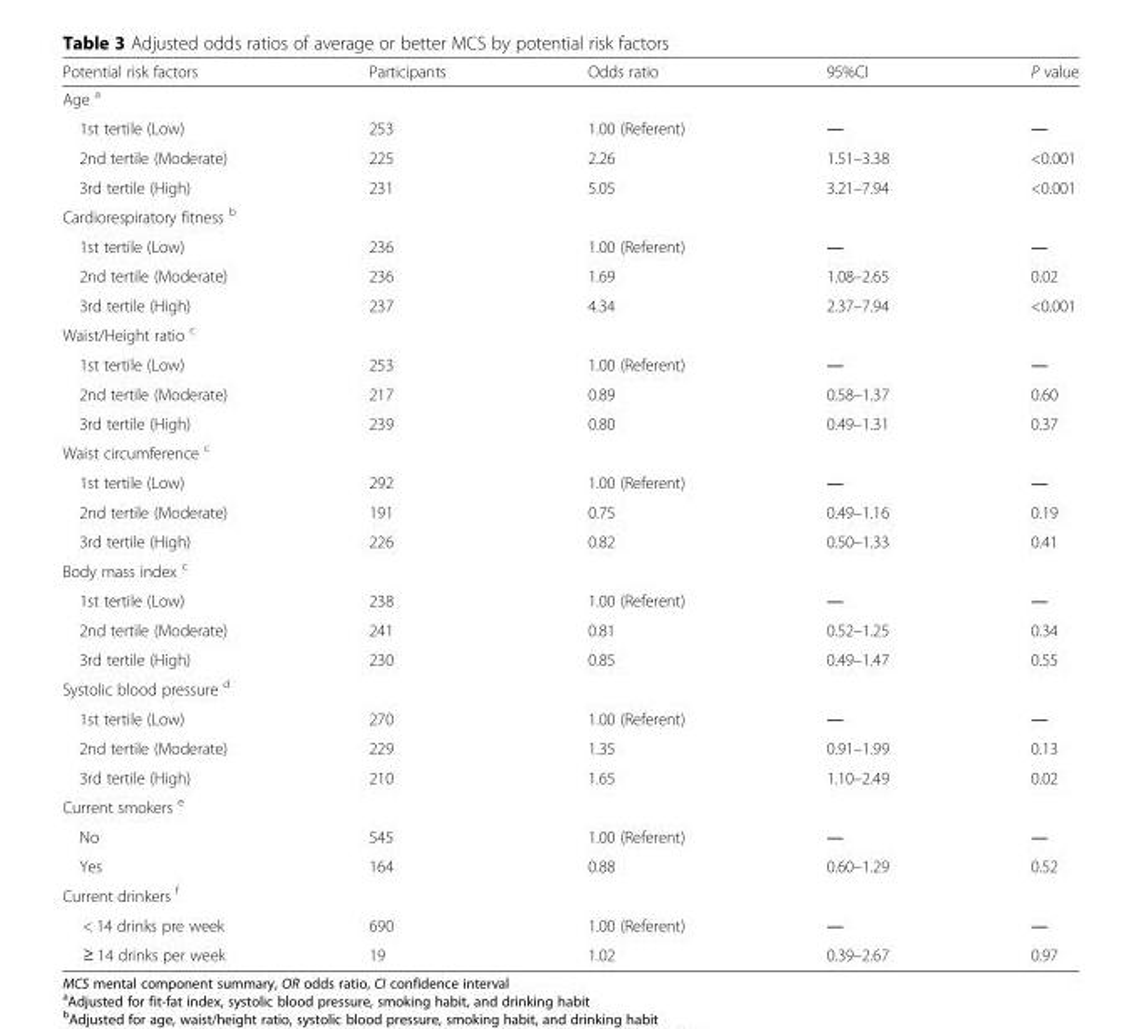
<table><thead><tr><td>Potential risk factors</td><td>Participants</td><td>Odds ratio</td><td>95%CI</td><td>P value</td></tr></thead><tbody><tr><td colspan="5">Age <sup>a</sup></td></tr><tr><td>1st tertile (Low)</td><td>253</td><td>1.00 (Referent)</td><td>―</td><td>―</td></tr><tr><td>2nd tertile (Moderate)</td><td>225</td><td>2.26</td><td>1.51–3.38</td><td>&lt;0.001</td></tr><tr><td>3rd tertile (High)</td><td>231</td><td>5.05</td><td>3.21–7.94</td><td>&lt;0.001</td></tr><tr><td colspan="5">Cardiorespiratory fitness <sup>b</sup></td></tr><tr><td>1st tertile (Low)</td><td>236</td><td>1.00 (Referent)</td><td>―</td><td>―</td></tr><tr><td>2nd tertile (Moderate)</td><td>236</td><td>1.69</td><td>1.08–2.65</td><td>0.02</td></tr><tr><td>3rd tertile (High)</td><td>237</td><td>4.34</td><td>2.37–7.94</td><td>&lt;0.001</td></tr><tr><td colspan="5">Waist/Height ratio <sup>c</sup></td></tr><tr><td>1st tertile (Low)</td><td>253</td><td>1.00 (Referent)</td><td>―</td><td>―</td></tr><tr><td>2nd tertile (Moderate)</td><td>217</td><td>0.89</td><td>0.58–1.37</td><td>0.60</td></tr><tr><td>3rd tertile (High)</td><td>239</td><td>0.80</td><td>0.49–1.31</td><td>0.37</td></tr><tr><td colspan="5">Waist circumference <sup>c</sup></td></tr><tr><td>1st tertile (Low)</td><td>292</td><td>1.00 (Referent)</td><td>―</td><td>―</td></tr><tr><td>2nd tertile (Moderate)</td><td>191</td><td>0.75</td><td>0.49–1.16</td><td>0.19</td></tr><tr><td>3rd tertile (High)</td><td>226</td><td>0.82</td><td>0.50–1.33</td><td>0.41</td></tr><tr><td colspan="5">Body mass index <sup>c</sup></td></tr><tr><td>1st tertile (Low)</td><td>238</td><td>1.00 (Referent)</td><td>―</td><td>―</td></tr><tr><td>2nd tertile (Moderate)</td><td>241</td><td>0.81</td><td>0.52–1.25</td><td>0.34</td></tr><tr><td>3rd tertile (High)</td><td>230</td><td>0.85</td><td>0.49–1.47</td><td>0.55</td></tr><tr><td colspan="5">Systolic blood pressure <sup>d</sup></td></tr><tr><td>1st tertile (Low)</td><td>270</td><td>1.00 (Referent)</td><td>―</td><td>―</td></tr><tr><td>2nd tertile (Moderate)</td><td>229</td><td>1.35</td><td>0.91–1.99</td><td>0.13</td></tr><tr><td>3rd tertile (High)</td><td>210</td><td>1.65</td><td>1.10–2.49</td><td>0.02</td></tr><tr><td colspan="5">Current smokers <sup>e</sup></td></tr><tr><td>No</td><td>545</td><td>1.00 (Referent)</td><td>―</td><td>―</td></tr><tr><td>Yes</td><td>164</td><td>0.88</td><td>0.60–1.29</td><td>0.52</td></tr><tr><td colspan="5">Current drinkers <sup>f</sup></td></tr><tr><td>&lt; 14 drinks pre week</td><td>690</td><td>1.00 (Referent)</td><td>―</td><td>―</td></tr><tr><td>≥ 14 drinks per week</td><td>19</td><td>1.02</td><td>0.39–2.67</td><td>0.97</td></tr></tbody></table>